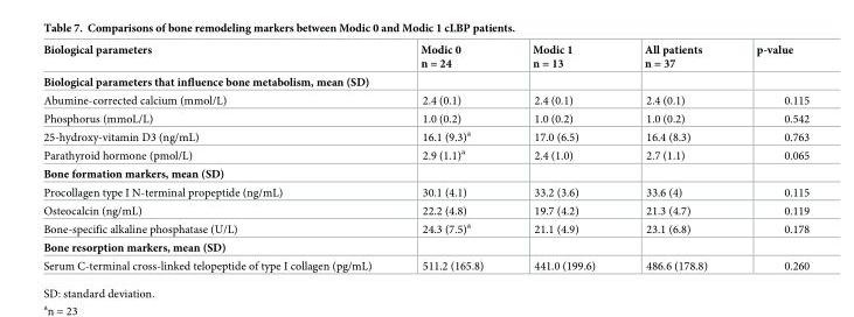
<table><thead><tr><td>Biological parameters</td><td>Modic 0 n = 24</td><td>Modic 1 n = 13</td><td>All patients n = 37</td><td>p-value</td></tr></thead><tbody><tr><td colspan="5">Biological parameters that influence bone metabolism, mean (SD)</td></tr><tr><td>Abumine-corrected calcium (mmol/L)</td><td>2.4 (0.1)</td><td>2.4 (0.1)</td><td>2.4 (0.1)</td><td>0.115</td></tr><tr><td>Phosphorus (mmoL/L)</td><td>1.0 (0.2)</td><td>1.0 (0.2)</td><td>1.0 (0.2)</td><td>0.542</td></tr><tr><td>25-hydroxy-vitamin D3 (ng/mL)</td><td>16.1 (9.3)<sup>a</sup></td><td>17.0 (6.5)</td><td>16.4 (8.3)</td><td>0.763</td></tr><tr><td>Parathyroid hormone (pmol/L)</td><td>2.9 (1.1)<sup>a</sup></td><td>2.4 (1.0)</td><td>2.7 (1.1)</td><td>0.065</td></tr><tr><td colspan="5">Bone formation markers, mean (SD)</td></tr><tr><td>Procollagen type I N-terminal propeptide (ng/mL)</td><td>30.1 (4.1)</td><td>33.2 (3.6)</td><td>33.6 (4)</td><td>0.115</td></tr><tr><td>Osteocalcin (ng/mL)</td><td>22.2 (4.8)</td><td>19.7 (4.2)</td><td>21.3 (4.7)</td><td>0.119</td></tr><tr><td>Bone-specific alkaline phosphatase (U/L)</td><td>24.3 (7.5)<sup>a</sup></td><td>21.1 (4.9)</td><td>23.1 (6.8)</td><td>0.178</td></tr><tr><td colspan="5">Bone resorption markers, mean (SD)</td></tr><tr><td>Serum C-terminal cross-linked telopeptide of type I collagen (pg/mL)</td><td>511.2 (165.8)</td><td>441.0 (199.6)</td><td>486.6 (178.8)</td><td>0.260</td></tr></tbody></table>